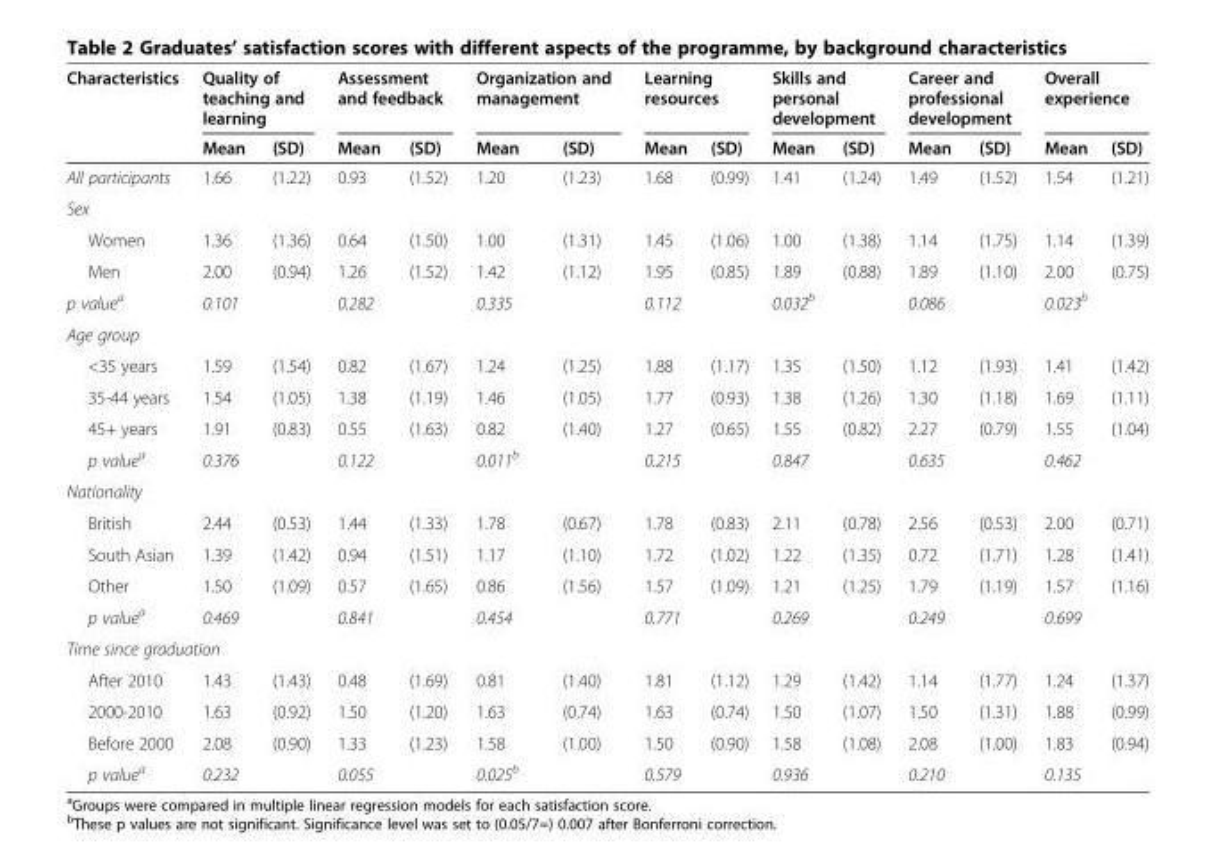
<table><thead><tr><td rowspan="2">Characteristics</td><td colspan="2">Quality of teaching and learning</td><td colspan="2">Assessment and feedback</td><td colspan="2">Organization and management</td><td colspan="2">Learning resources</td><td colspan="2">Skills and personal development</td><td colspan="2">Career and professional development</td><td colspan="2">Overall experience</td></tr><tr><td>Mean</td><td>(SD)</td><td>Mean</td><td>(SD)</td><td>Mean</td><td>(SD)</td><td>Mean</td><td>(SD)</td><td>Mean</td><td>(SD)</td><td>Mean</td><td>(SD)</td><td>Mean</td><td>(SD)</td></tr></thead><tbody><tr><td>All participants</td><td>1.66</td><td>(1.22)</td><td>0.93</td><td>(1.52)</td><td>1.20</td><td>(1.23)</td><td>1.68</td><td>(0.99)</td><td>1.41</td><td>(1.24)</td><td>1.49</td><td>(1.52)</td><td>1.54</td><td>(1.21)</td></tr><tr><td colspan="15">Sex</td></tr><tr><td>Women</td><td>1.36</td><td>(1.36)</td><td>0.64</td><td>(1.50)</td><td>1.00</td><td>(1.31)</td><td>1.45</td><td>(1.06)</td><td>1.00</td><td>(1.38)</td><td>1.14</td><td>(1.75)</td><td>1.14</td><td>(1.39)</td></tr><tr><td>Men</td><td>2.00</td><td>(0.94)</td><td>1.26</td><td>(1.52)</td><td>1.42</td><td>(1.12)</td><td>1.95</td><td>(0.85)</td><td>1.89</td><td>(0.88)</td><td>1.89</td><td>(1.10)</td><td>2.00</td><td>(0.75)</td></tr><tr><td>p value<sup>a</sup></td><td colspan="2">0.101</td><td colspan="2">0.282</td><td colspan="2">0.335</td><td colspan="2">0.112</td><td colspan="2">0.032<sup>b</sup></td><td colspan="2">0.086</td><td colspan="2">0.023<sup>b</sup></td></tr><tr><td colspan="15">Age group</td></tr><tr><td>&lt;35 years</td><td>1.59</td><td>(1.54)</td><td>0.82</td><td>(1.67)</td><td>1.24</td><td>(1.25)</td><td>1.88</td><td>(1.17)</td><td>1.35</td><td>(1.50)</td><td>1.12</td><td>(1.93)</td><td>1.41</td><td>(1.42)</td></tr><tr><td>35-44 years</td><td>1.54</td><td>(1.05)</td><td>1.38</td><td>(1.19)</td><td>1.46</td><td>(1.05)</td><td>1.77</td><td>(0.93)</td><td>1.38</td><td>(1.26)</td><td>1.30</td><td>(1.18)</td><td>1.69</td><td>(1.11)</td></tr><tr><td>45+ years</td><td>1.91</td><td>(0.83)</td><td>0.55</td><td>(1.63)</td><td>0.82</td><td>(1.40)</td><td>1.27</td><td>(0.65)</td><td>1.55</td><td>(0.82)</td><td>2.27</td><td>(0.79)</td><td>1.55</td><td>(1.04)</td></tr><tr><td>p value<sup>a</sup></td><td colspan="2">0.376</td><td colspan="2">0.122</td><td colspan="2">0.011<sup>b</sup></td><td colspan="2">0.215</td><td colspan="2">0.847</td><td colspan="2">0.635</td><td colspan="2">0.462</td></tr><tr><td colspan="15">Nationality</td></tr><tr><td>British</td><td>2.44</td><td>(0.53)</td><td>1.44</td><td>(1.33)</td><td>1.78</td><td>(0.67)</td><td>1.78</td><td>(0.83)</td><td>2.11</td><td>(0.78)</td><td>2.56</td><td>(0.53)</td><td>2.00</td><td>(0.71)</td></tr><tr><td>South Asian</td><td>1.39</td><td>(1.42)</td><td>0.94</td><td>(1.51)</td><td>1.17</td><td>(1.10)</td><td>1.72</td><td>(1.02)</td><td>1.22</td><td>(1.35)</td><td>0.72</td><td>(1.71)</td><td>1.28</td><td>(1.41)</td></tr><tr><td>Other</td><td>1.50</td><td>(1.09)</td><td>0.57</td><td>(1.65)</td><td>0.86</td><td>(1.56)</td><td>1.57</td><td>(1.09)</td><td>1.21</td><td>(1.25)</td><td>1.79</td><td>(1.19)</td><td>1.57</td><td>(1.16)</td></tr><tr><td>p value<sup>a</sup></td><td colspan="2">0.469</td><td colspan="2">0.841</td><td colspan="2">0.454</td><td colspan="2">0.771</td><td colspan="2">0.269</td><td colspan="2">0.249</td><td colspan="2">0.699</td></tr><tr><td colspan="15">Time since graduation</td></tr><tr><td>After 2010</td><td>1.43</td><td>(1.43)</td><td>0.48</td><td>(1.69)</td><td>0.81</td><td>(1.40)</td><td>1.81</td><td>(1.12)</td><td>1.29</td><td>(1.42)</td><td>1.14</td><td>(1.77)</td><td>1.24</td><td>(1.37)</td></tr><tr><td>2000-2010</td><td>1.63</td><td>(0.92)</td><td>1.50</td><td>(1.20)</td><td>1.63</td><td>(0.74)</td><td>1.63</td><td>(0.74)</td><td>1.50</td><td>(1.07)</td><td>1.50</td><td>(1.31)</td><td>1.88</td><td>(0.99)</td></tr><tr><td>Before 2000</td><td>2.08</td><td>(0.90)</td><td>1.33</td><td>(1.23)</td><td>1.58</td><td>(1.00)</td><td>1.50</td><td>(0.90)</td><td>1.58</td><td>(1.08)</td><td>2.08</td><td>(1.00)</td><td>1.83</td><td>(0.94)</td></tr><tr><td>p value<sup>a</sup></td><td colspan="2">0.232</td><td colspan="2">0.055</td><td colspan="2">0.025<sup>b</sup></td><td colspan="2">0.579</td><td colspan="2">0.936</td><td colspan="2">0.210</td><td colspan="2">0.135</td></tr></tbody></table>